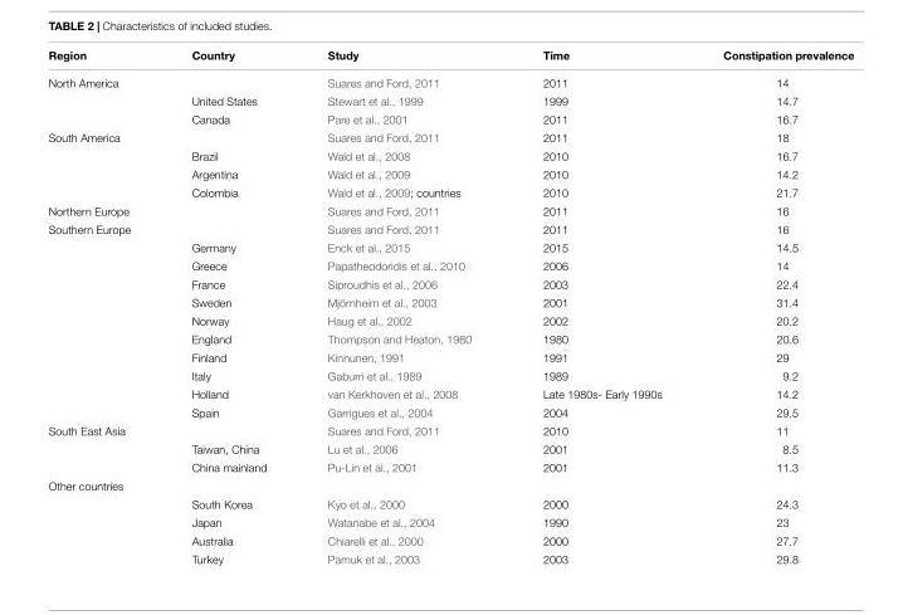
<table><thead><tr><td>Region</td><td>Country</td><td>Study</td><td>Time</td><td>Constipation prevalence</td></tr></thead><tbody><tr><td rowspan="3">North America</td><td></td><td>Suares and Ford, 2011</td><td>2011</td><td>14</td></tr><tr><td>United States</td><td>Stewart et al., 1999</td><td>1999</td><td>14.7</td></tr><tr><td>Canada</td><td>Pare et al., 2001</td><td>2011</td><td>16.7</td></tr><tr><td rowspan="4">South America</td><td></td><td>Suares and Ford, 2011</td><td>2011</td><td>18</td></tr><tr><td>Brazil</td><td>Wald et al., 2008</td><td>2010</td><td>16.7</td></tr><tr><td>Argentina</td><td>Wald et al., 2009</td><td>2010</td><td>14.2</td></tr><tr><td>Colombia</td><td>Wald et al., 2009; countries</td><td>2010</td><td>21.7</td></tr><tr><td>Northern Europe</td><td></td><td>Suares and Ford, 2011</td><td>2011</td><td>16</td></tr><tr><td rowspan="11">Southern Europe</td><td></td><td>Suares and Ford, 2011</td><td>2011</td><td>16</td></tr><tr><td>Germany</td><td>Enck et al., 2015</td><td>2015</td><td>14.5</td></tr><tr><td>Greece</td><td>Papatheodoridis et al., 2010</td><td>2006</td><td>14</td></tr><tr><td>France</td><td>Siproudhis et al., 2006</td><td>2003</td><td>22.4</td></tr><tr><td>Sweden</td><td>Mjörnheim et al., 2003</td><td>2001</td><td>31.4</td></tr><tr><td>Norway</td><td>Haug et al., 2002</td><td>2002</td><td>20.2</td></tr><tr><td>England</td><td>Thompson and Heaton, 1980</td><td>1980</td><td>20.6</td></tr><tr><td>Finland</td><td>Kinnunen, 1991</td><td>1991</td><td>29</td></tr><tr><td>Italy</td><td>Gaburri et al., 1989</td><td>1989</td><td>9.2</td></tr><tr><td>Holland</td><td>van Kerkhoven et al., 2008</td><td>Late 1980s- Early 1990s</td><td>14.2</td></tr><tr><td>Spain</td><td>Garrigues et al., 2004</td><td>2004</td><td>29.5</td></tr><tr><td rowspan="3">South East Asia</td><td></td><td>Suares and Ford, 2011</td><td>2010</td><td>11</td></tr><tr><td>Taiwan, China</td><td>Lu et al., 2006</td><td>2001</td><td>8.5</td></tr><tr><td>China mainland</td><td>Pu-Lin et al., 2001</td><td>2001</td><td>11.3</td></tr><tr><td colspan="5">Other countries</td></tr><tr><td></td><td>South Korea</td><td>Kyo et al., 2000</td><td>2000</td><td>24.3</td></tr><tr><td></td><td>Japan</td><td>Watanabe et al., 2004</td><td>1990</td><td>23</td></tr><tr><td></td><td>Australia</td><td>Chiarelli et al., 2000</td><td>2000</td><td>27.7</td></tr><tr><td></td><td>Turkey</td><td>Pamuk et al., 2003</td><td>2003</td><td>29.8</td></tr></tbody></table>